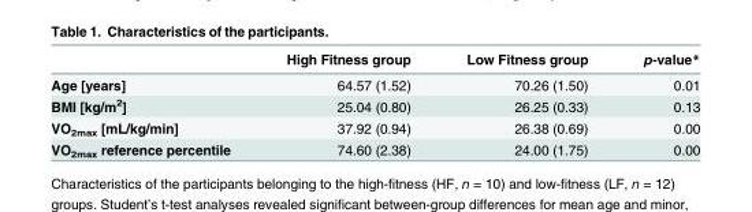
<table><thead><tr><td></td><td>High Fitness group</td><td>Low Fitness group</td><td>p-value*</td></tr></thead><tbody><tr><td>Age [years]</td><td>64.57 (1.52)</td><td>70.26 (1.50)</td><td>0.01</td></tr><tr><td>BMI [kg/m<sup>2</sup>]</td><td>25.04 (0.80)</td><td>26.25 (0.33)</td><td>0.13</td></tr><tr><td>VO<sub>2max</sub> [mL/kg/min]</td><td>37.92 (0.94)</td><td>26.38 (0.69)</td><td>0.00</td></tr><tr><td>VO<sub>2max</sub> reference percentile</td><td>74.60 (2.38)</td><td>24.00 (1.75)</td><td>0.00</td></tr></tbody></table>